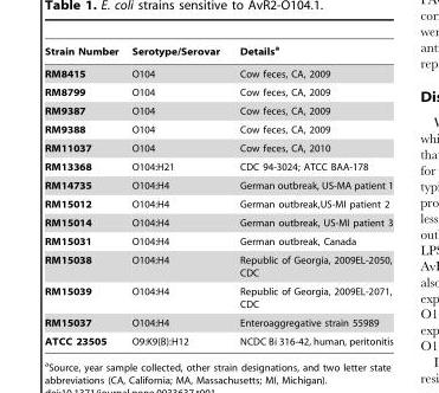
<table><thead><tr><td>Strain Number</td><td>Serotype/Serovar</td><td>Details<sup>a</sup></td></tr></thead><tbody><tr><td>RM8415</td><td>O104</td><td>Cow feces, CA, 2009</td></tr><tr><td>RM8799</td><td>O104</td><td>Cow feces, CA, 2009</td></tr><tr><td>RM9387</td><td>O104</td><td>Cow feces, CA, 2009</td></tr><tr><td>RM9388</td><td>O104</td><td>Cow feces, CA, 2009</td></tr><tr><td>RM11037</td><td>O104</td><td>Cow feces, CA, 2010</td></tr><tr><td>RM13368</td><td>O104:H21</td><td>CDC 94-3024; ATCC BAA-178</td></tr><tr><td>RM14735</td><td>O104:H4</td><td>German outbreak, US-MA patient 1</td></tr><tr><td>RM15012</td><td>O104:H4</td><td>German outbreak,US-MI patient 2</td></tr><tr><td>RM15014</td><td>O104:H4</td><td>German outbreak, US-MI patient 3</td></tr><tr><td>RM15031</td><td>O104:H4</td><td>German outbreak, Canada</td></tr><tr><td>RM15038</td><td>O104:H4</td><td>Republic of Georgia, 2009EL-2050, CDC</td></tr><tr><td>RM15039</td><td>O104:H4</td><td>Republic of Georgia, 2009EL-2071, CDC</td></tr><tr><td>RM15037</td><td>O104:H4</td><td>Enteroaggregative strain 55989</td></tr><tr><td>ATCC 23505</td><td>O9:K9(B):H12</td><td>NCDC Bi 316-42, human, peritonitis</td></tr></tbody></table>